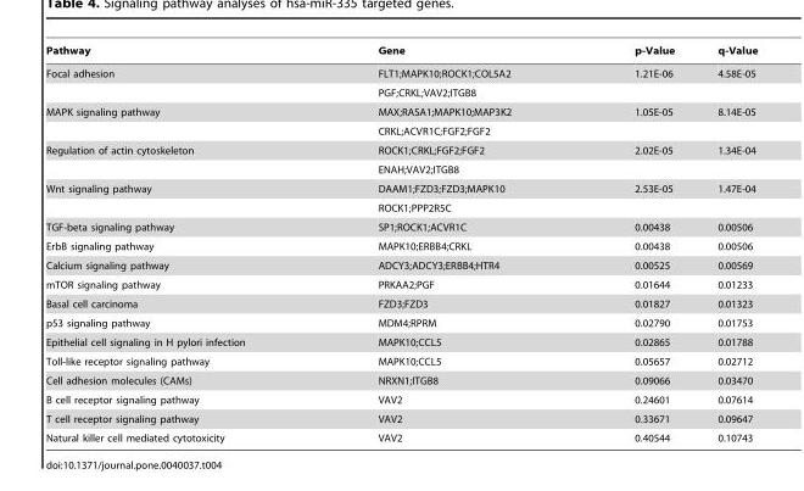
<table><thead><tr><td>Pathway</td><td>Gene</td><td>p-Value</td><td>q-Value</td></tr></thead><tbody><tr><td rowspan="2">Focal adhesion</td><td>FLT1;MAPK10;ROCK1;COL5A2</td><td>1.21E-06</td><td>4.58E-05</td></tr><tr><td>PGF;CRKL;VAV2;ITGB8</td><td></td><td></td></tr><tr><td rowspan="2">MAPK signaling pathway</td><td>MAX;RASA1;MAPK10;MAP3K2</td><td>1.05E-05</td><td>8.14E-05</td></tr><tr><td>CRKL;ACVR1C;FGF2;FGF2</td><td></td><td></td></tr><tr><td rowspan="2">Regulation of actin cytoskeleton</td><td>ROCK1;CRKL;FGF2;FGF2</td><td>2.02E-05</td><td>1.34E-04</td></tr><tr><td>ENAH;VAV2;ITGB8</td><td></td><td></td></tr><tr><td rowspan="2">Wnt signaling pathway</td><td>DAAM1;FZD3;FZD3;MAPK10</td><td>2.53E-05</td><td>1.47E-04</td></tr><tr><td>ROCK1;PPP2R5C</td><td></td><td></td></tr><tr><td>TGF-beta signaling pathway</td><td>SP1;ROCK1;ACVR1C</td><td>0.00438</td><td>0.00506</td></tr><tr><td>ErbB signaling pathway</td><td>MAPK10;ERBB4;CRKL</td><td>0.00438</td><td>0.00506</td></tr><tr><td>Calcium signaling pathway</td><td>ADCY3;ADCY3;ERBB4;HTR4</td><td>0.00525</td><td>0.00569</td></tr><tr><td>mTOR signaling pathway</td><td>PRKAA2;PGF</td><td>0.01644</td><td>0.01233</td></tr><tr><td>Basal cell carcinoma</td><td>FZD3;FZD3</td><td>0.01827</td><td>0.01323</td></tr><tr><td>p53 signaling pathway</td><td>MDM4;RPRM</td><td>0.02790</td><td>0.01753</td></tr><tr><td>Epithelial cell signaling in H pylori infection</td><td>MAPK10;CCL5</td><td>0.02865</td><td>0.01788</td></tr><tr><td>Toll-like receptor signaling pathway</td><td>MAPK10;CCL5</td><td>0.05657</td><td>0.02712</td></tr><tr><td>Cell adhesion molecules (CAMs)</td><td>NRXN1;ITGB8</td><td>0.09066</td><td>0.03470</td></tr><tr><td>B cell receptor signaling pathway</td><td>VAV2</td><td>0.24601</td><td>0.07614</td></tr><tr><td>T cell receptor signaling pathway</td><td>VAV2</td><td>0.33671</td><td>0.09647</td></tr><tr><td>Natural killer cell mediated cytotoxicity</td><td>VAV2</td><td>0.40544</td><td>0.10743</td></tr></tbody></table>